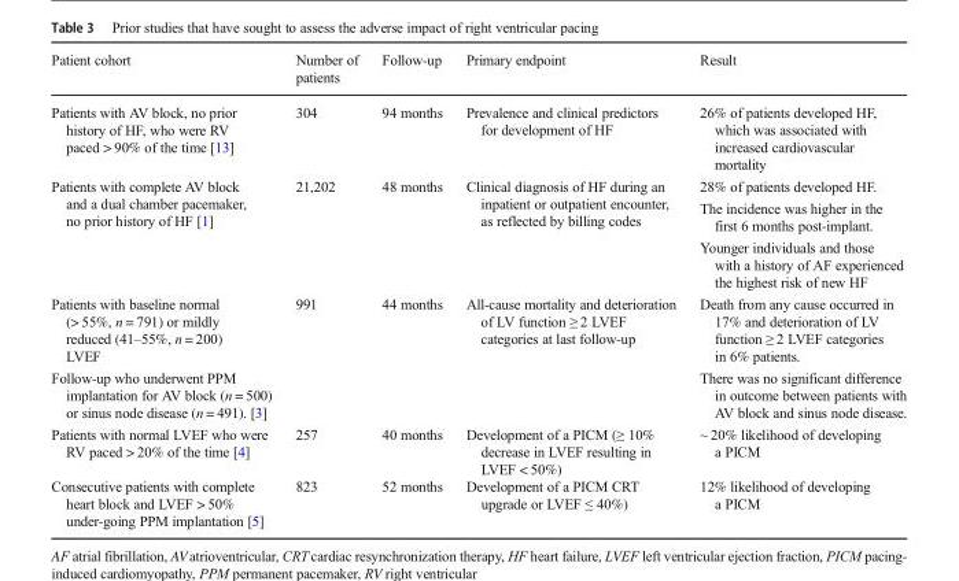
<table><thead><tr><td>Patient cohort</td><td>Number of patients</td><td>Follow-up</td><td>Primary endpoint</td><td>Result</td></tr></thead><tbody><tr><td>Patients with AV block, no prior history of HF, who were RV paced &gt; 90% of the time [13]</td><td>304</td><td>94 months</td><td>Prevalence and clinical predictors for development of HF</td><td>26% of patients developed HF, which was associated with increased cardiovascular mortality</td></tr><tr><td rowspan="3">Patients with complete AV block and a dual chamber pacemaker, no prior history of HF [1]</td><td rowspan="3">21,202</td><td rowspan="3">48 months</td><td rowspan="3">Clinical diagnosis of HF during an inpatient or outpatient encounter, as reflected by billing codes</td><td>28% of patients developed HF.</td></tr><tr><td>The incidence was higher in the first 6 months post-implant.</td></tr><tr><td>Younger individuals and those with a history of AF experienced the highest risk of new HF</td></tr><tr><td>Patients with baseline normal (&gt; 55%, n = 791) or mildly reduced (41–55%, n = 200) LVEF</td><td rowspan="2">991</td><td rowspan="2">44 months</td><td rowspan="2">All-cause mortality and deterioration of LV function ≥ 2 LVEF categories at last follow-up</td><td>Death from any cause occurred in 17% and deterioration of LV function ≥ 2 LVEF categories in 6% patients.</td></tr><tr><td>Follow-up who underwent PPM implantation for AV block (n = 500) or sinus node disease (n = 491). [3]</td><td>There was no significant difference in outcome between patients with AV block and sinus node disease.</td></tr><tr><td>Patients with normal LVEF who were RV paced &gt; 20% of the time [4]</td><td>257</td><td>40 months</td><td>Development of a PICM (≥ 10% decrease in LVEF resulting in LVEF &lt; 50%)</td><td>~ 20% likelihood of developing a PICM</td></tr><tr><td>Consecutive patients with complete heart block and LVEF &gt; 50% under-going PPM implantation [5]</td><td>823</td><td>52 months</td><td>Development of a PICM CRT upgrade or LVEF ≤ 40%)</td><td>12% likelihood of developing a PICM</td></tr></tbody></table>